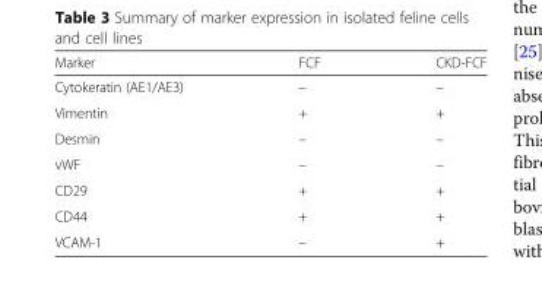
<table><thead><tr><td>Marker</td><td>FCF</td><td>CKD-FCF</td></tr></thead><tbody><tr><td>Cytokeratin (AE1/AE3)</td><td>–</td><td>–</td></tr><tr><td>Vimentin</td><td>+</td><td>+</td></tr><tr><td>Desmin</td><td>–</td><td>–</td></tr><tr><td>vWF</td><td>–</td><td>–</td></tr><tr><td>CD29</td><td>+</td><td>+</td></tr><tr><td>CD44</td><td>+</td><td>+</td></tr><tr><td>VCAM-1</td><td>–</td><td>+</td></tr></tbody></table>